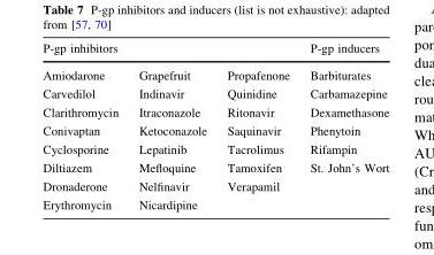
<table><thead><tr><td colspan="3">P-gp inhibitors</td><td rowspan="2">P-gp inducers Barbiturates</td></tr><tr><td>Amiodarone</td><td>Grapefruit</td><td>Propafenone</td></tr></thead><tbody><tr><td>Carvedilol</td><td>Indinavir</td><td>Quinidine</td><td>Carbamazepine</td></tr><tr><td>Clarithromycin</td><td>Itraconazole</td><td>Ritonavir</td><td>Dexamethasone</td></tr><tr><td>Conivaptan</td><td>Ketoconazole</td><td>Saquinavir</td><td>Phenytoin</td></tr><tr><td>Cyclosporine</td><td>Lepatinib</td><td>Tacrolimus</td><td>Rifampin</td></tr><tr><td>Diltiazem</td><td>Mefloquine</td><td>Tamoxifen</td><td>St. John’s Wort</td></tr><tr><td>Dronaderone</td><td>Nelfinavir</td><td>Verapamil</td><td></td></tr><tr><td>Erythromycin</td><td>Nicardipine</td><td></td><td></td></tr></tbody></table>